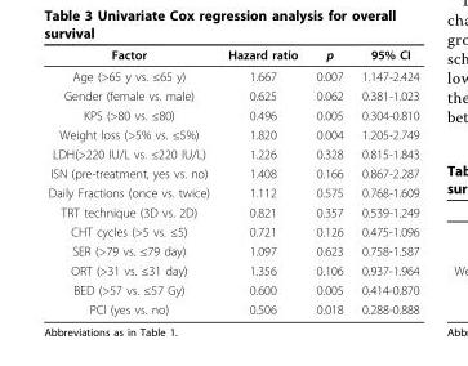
<table><thead><tr><td>Factor</td><td>Hazard ratio</td><td>p</td><td>95% CI</td></tr></thead><tbody><tr><td>Age (&gt;65 y vs. ≤65 y)</td><td>1.667</td><td>0.007</td><td>1.147-2.424</td></tr><tr><td>Gender (female vs. male)</td><td>0.625</td><td>0.062</td><td>0.381-1.023</td></tr><tr><td>KPS (&gt;80 vs. ≤80)</td><td>0.496</td><td>0.005</td><td>0.304-0.810</td></tr><tr><td>Weight loss (&gt;5% vs. ≤5%)</td><td>1.820</td><td>0.004</td><td>1.205-2.749</td></tr><tr><td>LDH(&gt;220 IU/L vs. ≤220 IU/L)</td><td>1.226</td><td>0.328</td><td>0.815-1.843</td></tr><tr><td>ISN (pre-treatment, yes vs. no)</td><td>1.408</td><td>0.166</td><td>0.867-2.287</td></tr><tr><td>Daily Fractions (once vs. twice)</td><td>1.112</td><td>0.575</td><td>0.768-1.609</td></tr><tr><td>TRT technique (3D vs. 2D)</td><td>0.821</td><td>0.357</td><td>0.539-1.249</td></tr><tr><td>CHT cycles (&gt;5 vs. ≤5)</td><td>0.721</td><td>0.126</td><td>0.475-1.096</td></tr><tr><td>SER (&gt;79 vs. ≤79 day)</td><td>1.097</td><td>0.623</td><td>0.758-1.587</td></tr><tr><td>ORT (&gt;31 vs. ≤31 day)</td><td>1.356</td><td>0.106</td><td>0.937-1.964</td></tr><tr><td>BED (&gt;57 vs. ≤57 Gy)</td><td>0.600</td><td>0.005</td><td>0.414-0.870</td></tr><tr><td>PCI (yes vs. no)</td><td>0.506</td><td>0.018</td><td>0.288-0.888</td></tr></tbody></table>